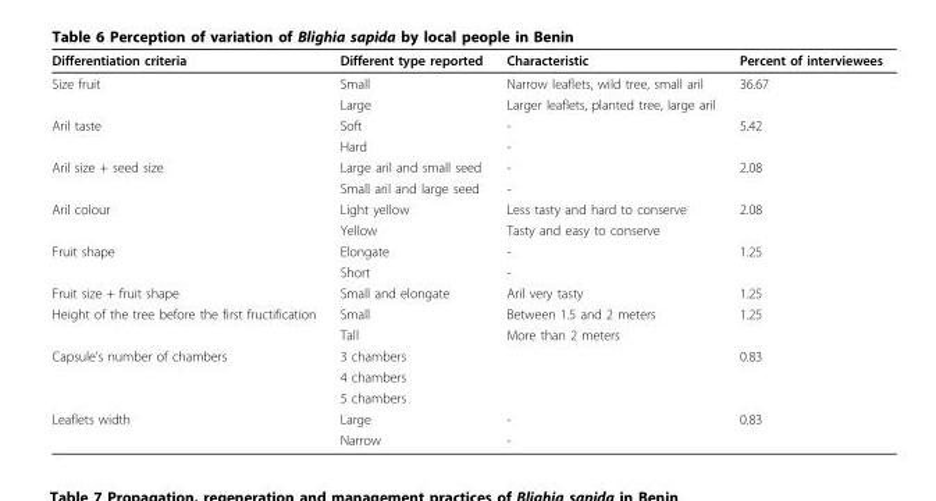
<table><thead><tr><td>Differentiation criteria</td><td>Different type reported</td><td>Characteristic</td><td>Percent of interviewees</td></tr></thead><tbody><tr><td rowspan="2">Size fruit</td><td>Small</td><td>Narrow leaflets, wild tree, small aril</td><td>36.67</td></tr><tr><td>Large</td><td>Larger leaflets, planted tree, large aril</td><td></td></tr><tr><td rowspan="2">Aril taste</td><td>Soft</td><td>-</td><td>5.42</td></tr><tr><td>Hard</td><td>-</td><td></td></tr><tr><td rowspan="2">Aril size + seed size</td><td>Large aril and small seed</td><td>-</td><td>2.08</td></tr><tr><td>Small aril and large seed</td><td>-</td><td></td></tr><tr><td rowspan="2">Aril colour</td><td>Light yellow</td><td>Less tasty and hard to conserve</td><td>2.08</td></tr><tr><td>Yellow</td><td>Tasty and easy to conserve</td><td></td></tr><tr><td rowspan="2">Fruit shape</td><td>Elongate</td><td>-</td><td>1.25</td></tr><tr><td>Short</td><td>-</td><td></td></tr><tr><td>Fruit size + fruit shape</td><td>Small and elongate</td><td>Aril very tasty</td><td>1.25</td></tr><tr><td rowspan="2">Height of the tree before the first fructification</td><td>Small</td><td>Between 1.5 and 2 meters</td><td>1.25</td></tr><tr><td>Tall</td><td>More than 2 meters</td><td></td></tr><tr><td rowspan="3">Capsule’s number of chambers</td><td>3 chambers</td><td></td><td>0.83</td></tr><tr><td>4 chambers</td><td></td><td></td></tr><tr><td>5 chambers</td><td></td><td></td></tr><tr><td rowspan="2">Leaflets width</td><td>Large</td><td>-</td><td>0.83</td></tr><tr><td>Narrow</td><td>-</td><td></td></tr></tbody></table>